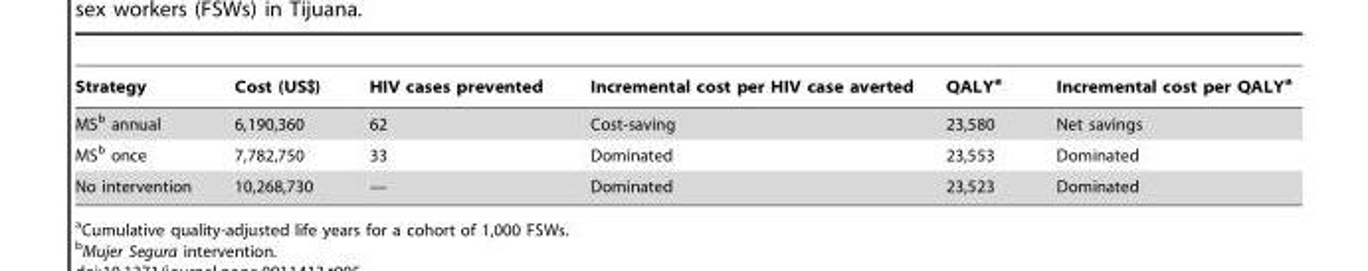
<table><thead><tr><td>Strategy</td><td>Cost (US$)</td><td>HIV cases prevented</td><td>Incremental cost per HIV case averted</td><td>QALY<sup>a</sup></td><td>Incremental cost per QALY<sup>a</sup></td></tr></thead><tbody><tr><td>MS<sup>b</sup> annual</td><td>6,190,360</td><td>62</td><td>Cost-saving</td><td>23,580</td><td>Net savings</td></tr><tr><td>MS<sup>b</sup> once</td><td>7,782,750</td><td>33</td><td>Dominated</td><td>23,553</td><td>Dominated</td></tr><tr><td>No intervention</td><td>10,268,730</td><td>—</td><td>Dominated</td><td>23,523</td><td>Dominated</td></tr></tbody></table>